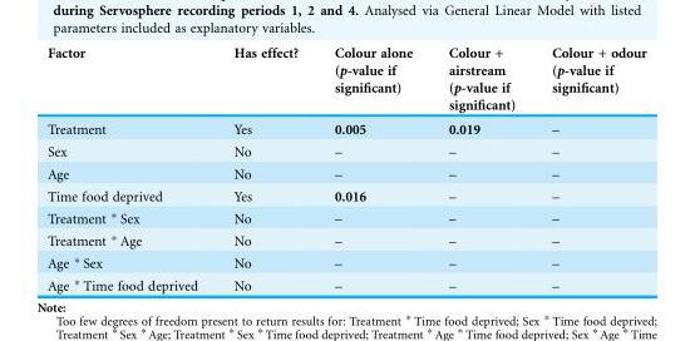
<table><thead><tr><td>Factor</td><td>Has effect?</td><td>Colour alone (p-value if significant)</td><td>Colour + airstream (p-value if significant)</td><td>Colour + odour (p-value if significant)</td></tr></thead><tbody><tr><td>Treatment</td><td>Yes</td><td>0.005</td><td>0.019</td><td>–</td></tr><tr><td>Sex</td><td>No</td><td>–</td><td>–</td><td>–</td></tr><tr><td>Age</td><td>No</td><td>–</td><td>–</td><td>–</td></tr><tr><td>Time food deprived</td><td>Yes</td><td>0.016</td><td>–</td><td>–</td></tr><tr><td>Treatment * Sex</td><td>No</td><td>–</td><td>–</td><td>–</td></tr><tr><td>Treatment * Age</td><td>No</td><td>–</td><td>–</td><td>–</td></tr><tr><td>Age * Sex</td><td>No</td><td>–</td><td>–</td><td>–</td></tr><tr><td>Age * Time food deprived</td><td>No</td><td>–</td><td>–</td><td>–</td></tr></tbody></table>